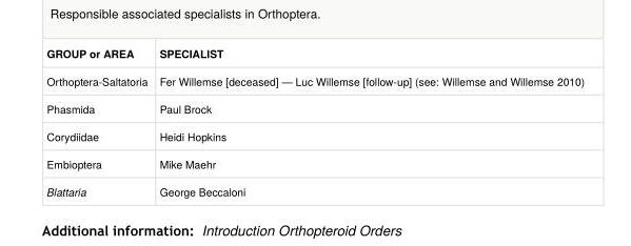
<table><tbody><tr><td>GROUP or AREA</td><td>SPECIALIST</td></tr><tr><td>Orthoptera-Saltatoria</td><td>Fer Willemse [deceased] — Luc Willemse [follow-up] (see: Willemse and Willemse 2010)</td></tr><tr><td>Phasmida</td><td>Paul Brock</td></tr><tr><td>Corydiidae</td><td>Heidi Hopkins</td></tr><tr><td>Embioptera</td><td>Mike Maehr</td></tr><tr><td>Blattaria</td><td>George Beccaloni</td></tr></tbody></table>